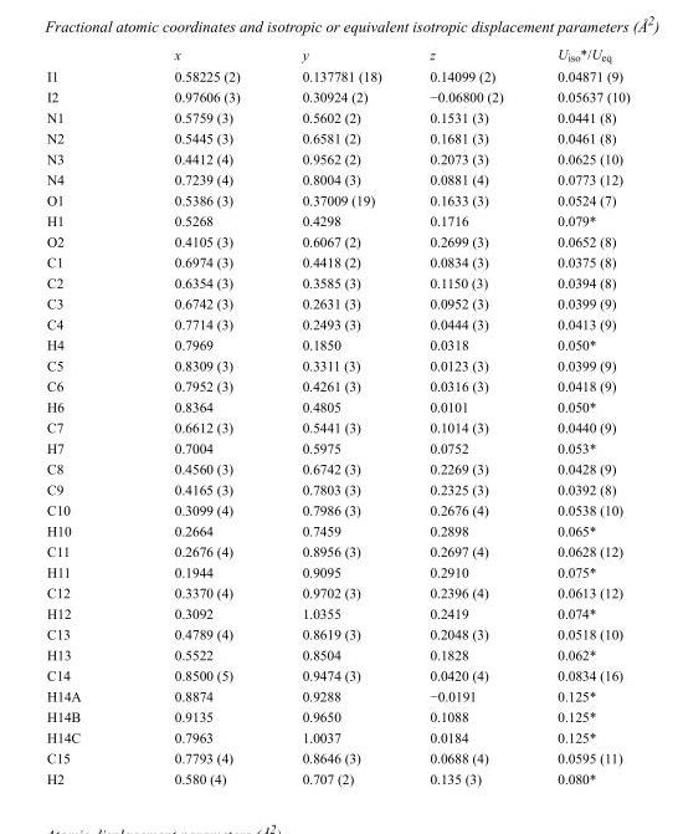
<table><thead><tr><td></td><td>x</td><td>y</td><td>z</td><td>U<sub>iso</sub>*/U<sub>eq</sub></td></tr></thead><tbody><tr><td>I1</td><td>0.58225 (2)</td><td>0.137781 (18)</td><td>0.14099 (2)</td><td>0.04871 (9)</td></tr><tr><td>I2</td><td>0.97606 (3)</td><td>0.30924 (2)</td><td>−0.06800 (2)</td><td>0.05637 (10)</td></tr><tr><td>N1</td><td>0.5759 (3)</td><td>0.5602 (2)</td><td>0.1531 (3)</td><td>0.0441 (8)</td></tr><tr><td>N2</td><td>0.5445 (3)</td><td>0.6581 (2)</td><td>0.1681 (3)</td><td>0.0461 (8)</td></tr><tr><td>N3</td><td>0.4412 (4)</td><td>0.9562 (2)</td><td>0.2073 (3)</td><td>0.0625 (10)</td></tr><tr><td>N4</td><td>0.7239 (4)</td><td>0.8004 (3)</td><td>0.0881 (4)</td><td>0.0773 (12)</td></tr><tr><td>O1</td><td>0.5386 (3)</td><td>0.37009 (19)</td><td>0.1633 (3)</td><td>0.0524 (7)</td></tr><tr><td>H1</td><td>0.5268</td><td>0.4298</td><td>0.1716</td><td>0.079*</td></tr><tr><td>O2</td><td>0.4105 (3)</td><td>0.6067 (2)</td><td>0.2699 (3)</td><td>0.0652 (8)</td></tr><tr><td>C1</td><td>0.6974 (3)</td><td>0.4418 (2)</td><td>0.0834 (3)</td><td>0.0375 (8)</td></tr><tr><td>C2</td><td>0.6354 (3)</td><td>0.3585 (3)</td><td>0.1150 (3)</td><td>0.0394 (8)</td></tr><tr><td>C3</td><td>0.6742 (3)</td><td>0.2631 (3)</td><td>0.0952 (3)</td><td>0.0399 (9)</td></tr><tr><td>C4</td><td>0.7714 (3)</td><td>0.2493 (3)</td><td>0.0444 (3)</td><td>0.0413 (9)</td></tr><tr><td>H4</td><td>0.7969</td><td>0.1850</td><td>0.0318</td><td>0.050*</td></tr><tr><td>C5</td><td>0.8309 (3)</td><td>0.3311 (3)</td><td>0.0123 (3)</td><td>0.0399 (9)</td></tr><tr><td>C6</td><td>0.7952 (3)</td><td>0.4261 (3)</td><td>0.0316 (3)</td><td>0.0418 (9)</td></tr><tr><td>H6</td><td>0.8364</td><td>0.4805</td><td>0.0101</td><td>0.050*</td></tr><tr><td>C7</td><td>0.6612 (3)</td><td>0.5441 (3)</td><td>0.1014 (3)</td><td>0.0440 (9)</td></tr><tr><td>H7</td><td>0.7004</td><td>0.5975</td><td>0.0752</td><td>0.053*</td></tr><tr><td>C8</td><td>0.4560 (3)</td><td>0.6742 (3)</td><td>0.2269 (3)</td><td>0.0428 (9)</td></tr><tr><td>C9</td><td>0.4165 (3)</td><td>0.7803 (3)</td><td>0.2325 (3)</td><td>0.0392 (8)</td></tr><tr><td>C10</td><td>0.3099 (4)</td><td>0.7986 (3)</td><td>0.2676 (4)</td><td>0.0538 (10)</td></tr><tr><td>H10</td><td>0.2664</td><td>0.7459</td><td>0.2898</td><td>0.065*</td></tr><tr><td>C11</td><td>0.2676 (4)</td><td>0.8956 (3)</td><td>0.2697 (4)</td><td>0.0628 (12)</td></tr><tr><td>H11</td><td>0.1944</td><td>0.9095</td><td>0.2910</td><td>0.075*</td></tr><tr><td>C12</td><td>0.3370 (4)</td><td>0.9702 (3)</td><td>0.2396 (4)</td><td>0.0613 (12)</td></tr><tr><td>H12</td><td>0.3092</td><td>1.0355</td><td>0.2419</td><td>0.074*</td></tr><tr><td>C13</td><td>0.4789 (4)</td><td>0.8619 (3)</td><td>0.2048 (3)</td><td>0.0518 (10)</td></tr><tr><td>H13</td><td>0.5522</td><td>0.8504</td><td>0.1828</td><td>0.062*</td></tr><tr><td>C14</td><td>0.8500 (5)</td><td>0.9474 (3)</td><td>0.0420 (4)</td><td>0.0834 (16)</td></tr><tr><td>H14A</td><td>0.8874</td><td>0.9288</td><td>−0.0191</td><td>0.125*</td></tr><tr><td>H14B</td><td>0.9135</td><td>0.9650</td><td>0.1088</td><td>0.125*</td></tr><tr><td>H14C</td><td>0.7963</td><td>1.0037</td><td>0.0184</td><td>0.125*</td></tr><tr><td>C15</td><td>0.7793 (4)</td><td>0.8646 (3)</td><td>0.0688 (4)</td><td>0.0595 (11)</td></tr><tr><td>H2</td><td>0.580 (4)</td><td>0.707 (2)</td><td>0.135 (3)</td><td>0.080*</td></tr></tbody></table>